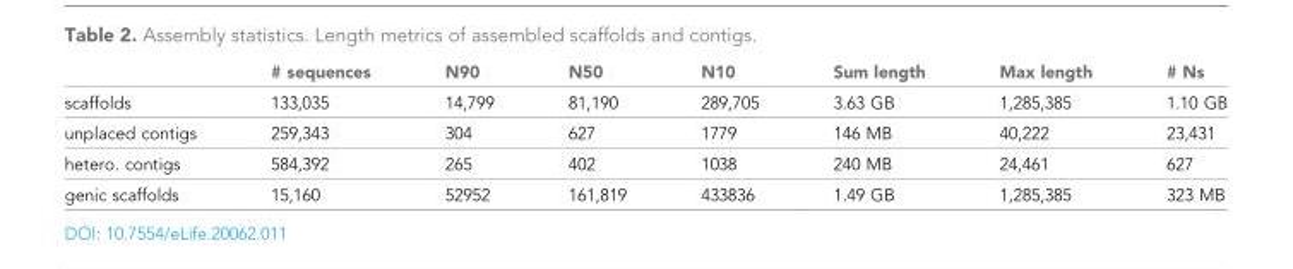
<table><thead><tr><td></td><td># sequences</td><td>N90</td><td>N50</td><td>N10</td><td>Sum length</td><td>Max length</td><td># Ns</td></tr></thead><tbody><tr><td>scaffolds</td><td>133,035</td><td>14,799</td><td>81,190</td><td>289,705</td><td>3.63 GB</td><td>1,285,385</td><td>1.10 GB</td></tr><tr><td>unplaced contigs</td><td>259,343</td><td>304</td><td>627</td><td>1779</td><td>146 MB</td><td>40,222</td><td>23,431</td></tr><tr><td>hetero. contigs</td><td>584,392</td><td>265</td><td>402</td><td>1038</td><td>240 MB</td><td>24,461</td><td>627</td></tr><tr><td>genic scaffolds</td><td>15,160</td><td>52952</td><td>161,819</td><td>433836</td><td>1.49 GB</td><td>1,285,385</td><td>323 MB</td></tr></tbody></table>